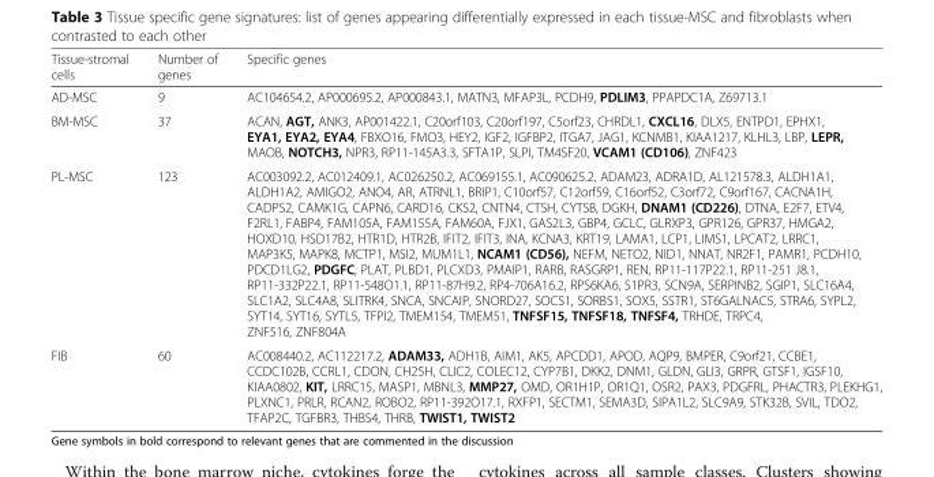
<table><thead><tr><td>Tissue-stromal cells</td><td>Number of genes</td><td>Specific genes</td></tr></thead><tbody><tr><td>AD-MSC</td><td>9</td><td>AC104654.2, AP000695.2, AP000843.1, MATN3, MFAP3L, PCDH9, PDLIM3, PPAPDC1A, Z69713.1</td></tr><tr><td>BM-MSC</td><td>37</td><td>ACAN, AGT, ANK3, AP001422.1, C20orf103, C20orf197, C5orf23, CHRDL1, CXCL16, DLX5, ENTPD1, EPHX1, EYA1, EYA2, EYA4, FBXO16, FMO3, HEY2, IGF2, IGFBP2, ITGA7, JAG1, KCNMB1, KIAA1217, KLHL3, LBP, LEPR, MAOB, NOTCH3, NPR3, RP11-145A3.3, SFTA1P, SLPI, TM4SF20, VCAM1 (CD106), ZNF423</td></tr><tr><td>PL-MSC</td><td>123</td><td>AC003092.2, AC012409.1, AC026250.2, AC069155.1, AC090625.2, ADAM23, ADRA1D, AL121578.3, ALDH1A1, ALDH1A2, AMIGO2, ANO4, AR, ATRNL1, BRIP1, C10orf57, C12orf59, C16orf52, C3orf72, C9orf167, CACNA1H, CADPS2, CAMK1G, CAPN6, CARD16, CKS2, CNTN4, CTSH, CYTSB, DGKH, DNAM1 (CD226), DTNA, E2F7, ETV4, F2RL1, FABP4, FAM105A, FAM155A, FAM60A, FJX1, GAS2L3, GBP4, GCLC, GLRXP3, GPR126, GPR37, HMGA2, HOXD10, HSD17B2, HTR1D, HTR2B, IFIT2, IFIT3, INA, KCNA3, KRT19, LAMA1, LCP1, LIMS1, LPCAT2, LRRC1, MAP3K5, MAPK8, MCTP1, MSI2, MUM1L1, NCAM1 (CD56), NEFM, NETO2, NID1, NNAT, NR2F1, PAMR1, PCDH10, PDCD1LG2, PDGFC, PLAT, PLBD1, PLCXD3, PMAIP1, RARB, RASGRP1, REN, RP11-117P22.1, RP11-251 J8.1, RP11-332P22.1, RP11-548O1.1, RP11-87H9.2, RP4-706A16.2, RPS6KA6, S1PR3, SCN9A, SERPINB2, SGIP1, SLC16A4, SLC1A2, SLC4A8, SLITRK4, SNCA, SNCAIP, SNORD27, SOCS1, SORBS1, SOX5, SSTR1, ST6GALNAC5, STRA6, SYPL2, SYT14, SYT16, SYTL5, TFPI2, TMEM154, TMEM51, TNFSF15, TNFSF18, TNFSF4, TRHDE, TRPC4, ZNF516, ZNF804A</td></tr><tr><td>FIB</td><td>60</td><td>AC008440.2, AC112217.2, ADAM33, ADH1B, AIM1, AK5, APCDD1, APOD, AQP9, BMPER, C9orf21, CCBE1, CCDC102B, CCRL1, CDON, CH25H, CLIC2, COLEC12, CYP7B1, DKK2, DNM1, GLDN, GLI3, GRPR, GTSF1, IGSF10, KIAA0802, KIT, LRRC15, MASP1, MBNL3, MMP27, OMD, OR1H1P, OR1Q1, OSR2, PAX3, PDGFRL, PHACTR3, PLEKHG1, PLXNC1, PRLR, RCAN2, ROBO2, RP11-392O17.1, RXFP1, SECTM1, SEMA3D, SIPA1L2, SLC9A9, STK32B, SVIL, TDO2, TFAP2C, TGFBR3, THBS4, THRB, TWIST1, TWIST2</td></tr></tbody></table>